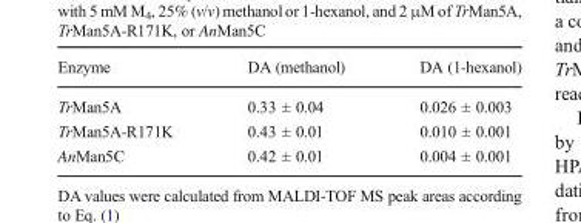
<table><thead><tr><td>Enzyme</td><td>DA (methanol)</td><td>DA (1-hexanol)</td></tr></thead><tbody><tr><td>TrMan5A</td><td>0.33 ± 0.04</td><td>0.026 ± 0.003</td></tr><tr><td>TrMan5A-R171K</td><td>0.43 ± 0.01</td><td>0.010 ± 0.001</td></tr><tr><td>AnMan5C</td><td>0.42 ± 0.01</td><td>0.004 ± 0.001</td></tr></tbody></table>